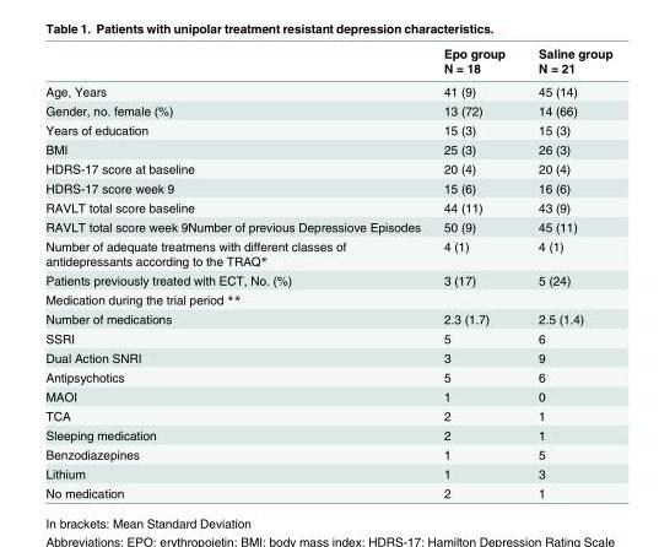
<table><thead><tr><td></td><td>Epo group N = 18</td><td>Saline group N = 21</td></tr></thead><tbody><tr><td>Age, Years</td><td>41 (9)</td><td>45 (14)</td></tr><tr><td>Gender, no. female (%)</td><td>13 (72)</td><td>14 (66)</td></tr><tr><td>Years of education</td><td>15 (3)</td><td>15 (3)</td></tr><tr><td>BMI</td><td>25 (3)</td><td>26 (3)</td></tr><tr><td>HDRS-17 score at baseline</td><td>20 (4)</td><td>20 (4)</td></tr><tr><td>HDRS-17 score week 9</td><td>15 (6)</td><td>16 (6)</td></tr><tr><td>RAVLT total score baseline</td><td>44 (11)</td><td>43 (9)</td></tr><tr><td>RAVLT total score week 9Number of previous Depressiove Episodes</td><td>50 (9)</td><td>45 (11)</td></tr><tr><td>Number of adequate treatmens with different classes of antidepressants according to the TRAQ*</td><td>4 (1)</td><td>4 (1)</td></tr><tr><td>Patients previously treated with ECT, No. (%)</td><td>3 (17)</td><td>5 (24)</td></tr><tr><td colspan="3">Medication during the trial period **</td></tr><tr><td>Number of medications</td><td>2.3 (1.7)</td><td>2.5 (1.4)</td></tr><tr><td>SSRI</td><td>5</td><td>6</td></tr><tr><td>Dual Action SNRI</td><td>3</td><td>9</td></tr><tr><td>Antipsychotics</td><td>5</td><td>6</td></tr><tr><td>MAOI</td><td>1</td><td>0</td></tr><tr><td>TCA</td><td>2</td><td>1</td></tr><tr><td>Sleeping medication</td><td>2</td><td>1</td></tr><tr><td>Benzodiazepines</td><td>1</td><td>5</td></tr><tr><td>Lithium</td><td>1</td><td>3</td></tr><tr><td>No medication</td><td>2</td><td>1</td></tr></tbody></table>